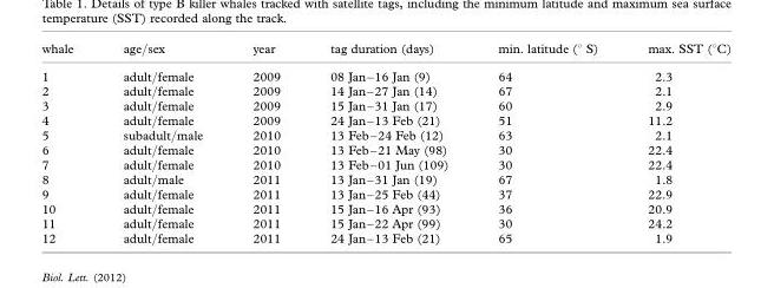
<table><thead><tr><td>whale</td><td>age/sex</td><td>year</td><td>tag duration (days)</td><td>min. latitude (° S)</td><td>max. SST (°C)</td></tr></thead><tbody><tr><td>1</td><td>adult/female</td><td>2009</td><td>08 Jan–16 Jan (9)</td><td>64</td><td>2.3</td></tr><tr><td>2</td><td>adult/female</td><td>2009</td><td>14 Jan–27 Jan (14)</td><td>67</td><td>2.1</td></tr><tr><td>3</td><td>adult/female</td><td>2009</td><td>15 Jan–31 Jan (17)</td><td>60</td><td>2.9</td></tr><tr><td>4</td><td>adult/female</td><td>2009</td><td>24 Jan–13 Feb (21)</td><td>51</td><td>11.2</td></tr><tr><td>5</td><td>subadult/male</td><td>2010</td><td>13 Feb–24 Feb (12)</td><td>63</td><td>2.1</td></tr><tr><td>6</td><td>adult/female</td><td>2010</td><td>13 Feb–21 May (98)</td><td>30</td><td>22.4</td></tr><tr><td>7</td><td>adult/female</td><td>2010</td><td>13 Feb–01 Jun (109)</td><td>30</td><td>22.4</td></tr><tr><td>8</td><td>adult/male</td><td>2011</td><td>13 Jan–31 Jan (19)</td><td>67</td><td>1.8</td></tr><tr><td>9</td><td>adult/female</td><td>2011</td><td>13 Jan–25 Feb (44)</td><td>37</td><td>22.9</td></tr><tr><td>10</td><td>adult/female</td><td>2011</td><td>15 Jan–16 Apr (93)</td><td>36</td><td>20.9</td></tr><tr><td>11</td><td>adult/female</td><td>2011</td><td>15 Jan–22 Apr (99)</td><td>30</td><td>24.2</td></tr><tr><td>12</td><td>adult/female</td><td>2011</td><td>24 Jan–13 Feb (21)</td><td>65</td><td>1.9</td></tr></tbody></table>